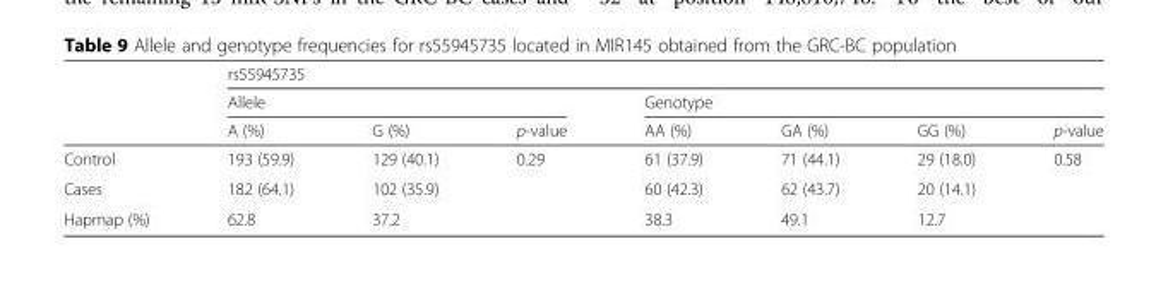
<table><thead><tr><td rowspan="3"></td><td colspan="7">rs55945735</td></tr><tr><td colspan="3">Allele</td><td colspan="4">Genotype</td></tr><tr><td>A (%)</td><td>G (%)</td><td>p-value</td><td>AA (%)</td><td>GA (%)</td><td>GG (%)</td><td>p-value</td></tr></thead><tbody><tr><td>Control</td><td>193 (59.9)</td><td>129 (40.1)</td><td rowspan="2">0.29</td><td>61 (37.9)</td><td>71 (44.1)</td><td>29 (18.0)</td><td rowspan="2">0.58</td></tr><tr><td>Cases</td><td>182 (64.1)</td><td>102 (35.9)</td><td>60 (42.3)</td><td>62 (43.7)</td><td>20 (14.1)</td></tr><tr><td>Hapmap (%)</td><td>62.8</td><td>37.2</td><td></td><td>38.3</td><td>49.1</td><td>12.7</td><td></td></tr></tbody></table>